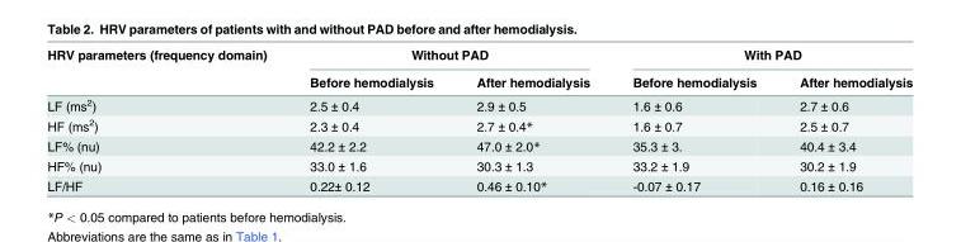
<table><thead><tr><td rowspan="2">HRV parameters (frequency domain)</td><td colspan="2">Without PAD</td><td colspan="2">With PAD</td></tr><tr><td>Before hemodialysis</td><td>After hemodialysis</td><td>Before hemodialysis</td><td>After hemodialysis</td></tr></thead><tbody><tr><td>LF (ms<sup>2</sup>)</td><td>2.5 ± 0.4</td><td>2.9 ± 0.5</td><td>1.6 ± 0.6</td><td>2.7 ± 0.6</td></tr><tr><td>HF (ms<sup>2</sup>)</td><td>2.3 ± 0.4</td><td>2.7 ± 0.4*</td><td>1.6 ± 0.7</td><td>2.5 ± 0.7</td></tr><tr><td>LF% (nu)</td><td>42.2 ± 2.2</td><td>47.0 ± 2.0*</td><td>35.3 ± 3.</td><td>40.4 ± 3.4</td></tr><tr><td>HF% (nu)</td><td>33.0 ± 1.6</td><td>30.3 ± 1.3</td><td>33.2 ± 1.9</td><td>30.2 ± 1.9</td></tr><tr><td>LF/HF</td><td>0.22± 0.12</td><td>0.46 ± 0.10*</td><td>-0.07 ± 0.17</td><td>0.16 ± 0.16</td></tr></tbody></table>